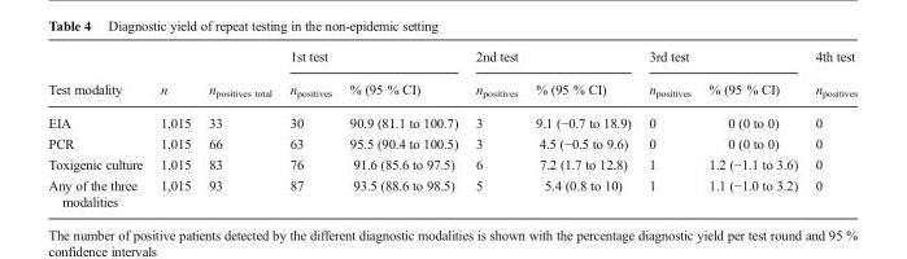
<table><thead><tr><td rowspan="2">Test modality</td><td rowspan="2">n</td><td rowspan="2">n<sub>positives total</sub></td><td colspan="2">1st test</td><td colspan="2">2nd test</td><td colspan="2">3rd test</td><td rowspan="2">4th test n<sub>positives</sub></td></tr><tr><td>n<sub>positives</sub></td><td>% (95 % CI)</td><td>n<sub>positives</sub></td><td>% (95 % CI)</td><td>n<sub>positives</sub></td><td>% (95 % CI)</td></tr></thead><tbody><tr><td>EIA</td><td>1,015</td><td>33</td><td>30</td><td>90.9 (81.1 to 100.7)</td><td>3</td><td>9.1 (−0.7 to 18.9)</td><td>0</td><td>0 (0 to 0)</td><td>0</td></tr><tr><td>PCR</td><td>1,015</td><td>66</td><td>63</td><td>95.5 (90.4 to 100.5)</td><td>3</td><td>4.5 (−0.5 to 9.6)</td><td>0</td><td>0 (0 to 0)</td><td>0</td></tr><tr><td>Toxigenic culture</td><td>1,015</td><td>83</td><td>76</td><td>91.6 (85.6 to 97.5)</td><td>6</td><td>7.2 (1.7 to 12.8)</td><td>1</td><td>1.2 (−1.1 to 3.6)</td><td>0</td></tr><tr><td>Any of the three modalities</td><td>1,015</td><td>93</td><td>87</td><td>93.5 (88.6 to 98.5)</td><td>5</td><td>5.4 (0.8 to 10)</td><td>1</td><td>1.1 (−1.0 to 3.2)</td><td>0</td></tr></tbody></table>